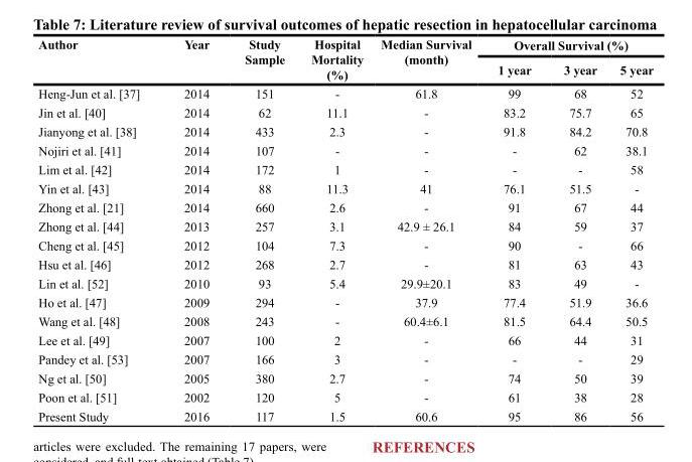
<table><thead><tr><td rowspan="2">Author</td><td rowspan="2">Year</td><td rowspan="2">Study Sample</td><td rowspan="2">Hospital Mortality (%)</td><td rowspan="2">Median Survival (month)</td><td colspan="3">Overall Survival (%)</td></tr><tr><td>1 year</td><td>3 year</td><td>5 year</td></tr></thead><tbody><tr><td>Heng-Jun et al. [37]</td><td>2014</td><td>151</td><td>-</td><td>61.8</td><td>99</td><td>68</td><td>52</td></tr><tr><td>Jin et al. [40]</td><td>2014</td><td>62</td><td>11.1</td><td>-</td><td>83.2</td><td>75.7</td><td>65</td></tr><tr><td>Jianyong et al. [38]</td><td>2014</td><td>433</td><td>2.3</td><td>-</td><td>91.8</td><td>84.2</td><td>70.8</td></tr><tr><td>Nojiri et al. [41]</td><td>2014</td><td>107</td><td>-</td><td>-</td><td>-</td><td>62</td><td>38.1</td></tr><tr><td>Lim et al. [42]</td><td>2014</td><td>172</td><td>1</td><td>-</td><td>-</td><td>-</td><td>58</td></tr><tr><td>Yin et al. [43]</td><td>2014</td><td>88</td><td>11.3</td><td>41</td><td>76.1</td><td>51.5</td><td>-</td></tr><tr><td>Zhong et al. [21]</td><td>2014</td><td>660</td><td>2.6</td><td>-</td><td>91</td><td>67</td><td>44</td></tr><tr><td>Zhong et al. [44]</td><td>2013</td><td>257</td><td>3.1</td><td>42.9 ± 26.1</td><td>84</td><td>59</td><td>37</td></tr><tr><td>Cheng et al. [45]</td><td>2012</td><td>104</td><td>7.3</td><td>-</td><td>90</td><td>-</td><td>66</td></tr><tr><td>Hsu et al. [46]</td><td>2012</td><td>268</td><td>2.7</td><td>-</td><td>81</td><td>63</td><td>43</td></tr><tr><td>Lin et al. [52]</td><td>2010</td><td>93</td><td>5.4</td><td>29.9±20.1</td><td>83</td><td>49</td><td>-</td></tr><tr><td>Ho et al. [47]</td><td>2009</td><td>294</td><td>-</td><td>37.9</td><td>77.4</td><td>51.9</td><td>36.6</td></tr><tr><td>Wang et al. [48]</td><td>2008</td><td>243</td><td>-</td><td>60.4±6.1</td><td>81.5</td><td>64.4</td><td>50.5</td></tr><tr><td>Lee et al. [49]</td><td>2007</td><td>100</td><td>2</td><td>-</td><td>66</td><td>44</td><td>31</td></tr><tr><td>Pandey et al. [53]</td><td>2007</td><td>166</td><td>3</td><td>-</td><td>-</td><td>-</td><td>29</td></tr><tr><td>Ng et al. [50]</td><td>2005</td><td>380</td><td>2.7</td><td>-</td><td>74</td><td>50</td><td>39</td></tr><tr><td>Poon et al. [51]</td><td>2002</td><td>120</td><td>5</td><td>-</td><td>61</td><td>38</td><td>28</td></tr><tr><td>Present Study</td><td>2016</td><td>117</td><td>1.5</td><td>60.6</td><td>95</td><td>86</td><td>56</td></tr></tbody></table>